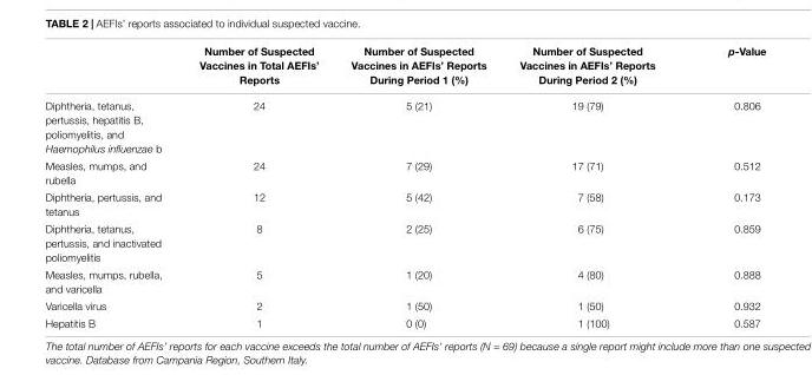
<table><thead><tr><td></td><td>Number of Suspected Vaccines in Total AEFIs’ Reports</td><td>Number of Suspected Vaccines in AEFIs’ Reports During Period 1 (%)</td><td>Number of Suspected Vaccines in AEFIs’ Reports During Period 2 (%)</td><td>p-Value</td></tr></thead><tbody><tr><td>Diphtheria, tetanus, pertussis, hepatitis B, poliomyelitis, and Haemophilus influenzae b</td><td>24</td><td>5 (21)</td><td>19 (79)</td><td>0.806</td></tr><tr><td>Measles, mumps, and rubella</td><td>24</td><td>7 (29)</td><td>17 (71)</td><td>0.512</td></tr><tr><td>Diphtheria, pertussis, and tetanus</td><td>12</td><td>5 (42)</td><td>7 (58)</td><td>0.173</td></tr><tr><td>Diphtheria, tetanus, pertussis, and inactivated poliomyelitis</td><td>8</td><td>2 (25)</td><td>6 (75)</td><td>0.859</td></tr><tr><td>Measles, mumps, rubella, and varicella</td><td>5</td><td>1 (20)</td><td>4 (80)</td><td>0.888</td></tr><tr><td>Varicella virus</td><td>2</td><td>1 (50)</td><td>1 (50)</td><td>0.932</td></tr><tr><td>Hepatitis B</td><td>1</td><td>0 (0)</td><td>1 (100)</td><td>0.587</td></tr></tbody></table>